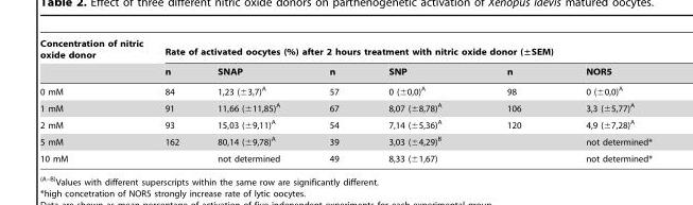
<table><thead><tr><td rowspan="2">Concentration of nitric oxide donor</td><td colspan="6">Rate of activated oocytes (%) after 2 hours treatment with nitric oxide donor (±SEM)</td></tr><tr><td>n</td><td>SNAP</td><td>n</td><td>SNP</td><td>n</td><td>NOR5</td></tr></thead><tbody><tr><td>0 mM</td><td>84</td><td>1,23 (±3,7)<sup>A</sup></td><td>57</td><td>0 (±0,0)<sup>A</sup></td><td>98</td><td>0 (±0,0)<sup>A</sup></td></tr><tr><td>1 mM</td><td>91</td><td>11,66 (±11,85)<sup>A</sup></td><td>67</td><td>8,07 (±8,78)<sup>A</sup></td><td>106</td><td>3,3 (±5,77)<sup>A</sup></td></tr><tr><td>2 mM</td><td>93</td><td>15,03 (±9,11)<sup>A</sup></td><td>54</td><td>7,14 (±5,36)<sup>A</sup></td><td>120</td><td>4,9 (±7,28)<sup>A</sup></td></tr><tr><td>5 mM</td><td>162</td><td>80,14 (±9,78)<sup>A</sup></td><td>39</td><td>3,03 (±4,29)<sup>B</sup></td><td></td><td>not determined*</td></tr><tr><td>10 mM</td><td></td><td>not determined</td><td>49</td><td>8,33 (±1,67)</td><td></td><td>not determined*</td></tr></tbody></table>